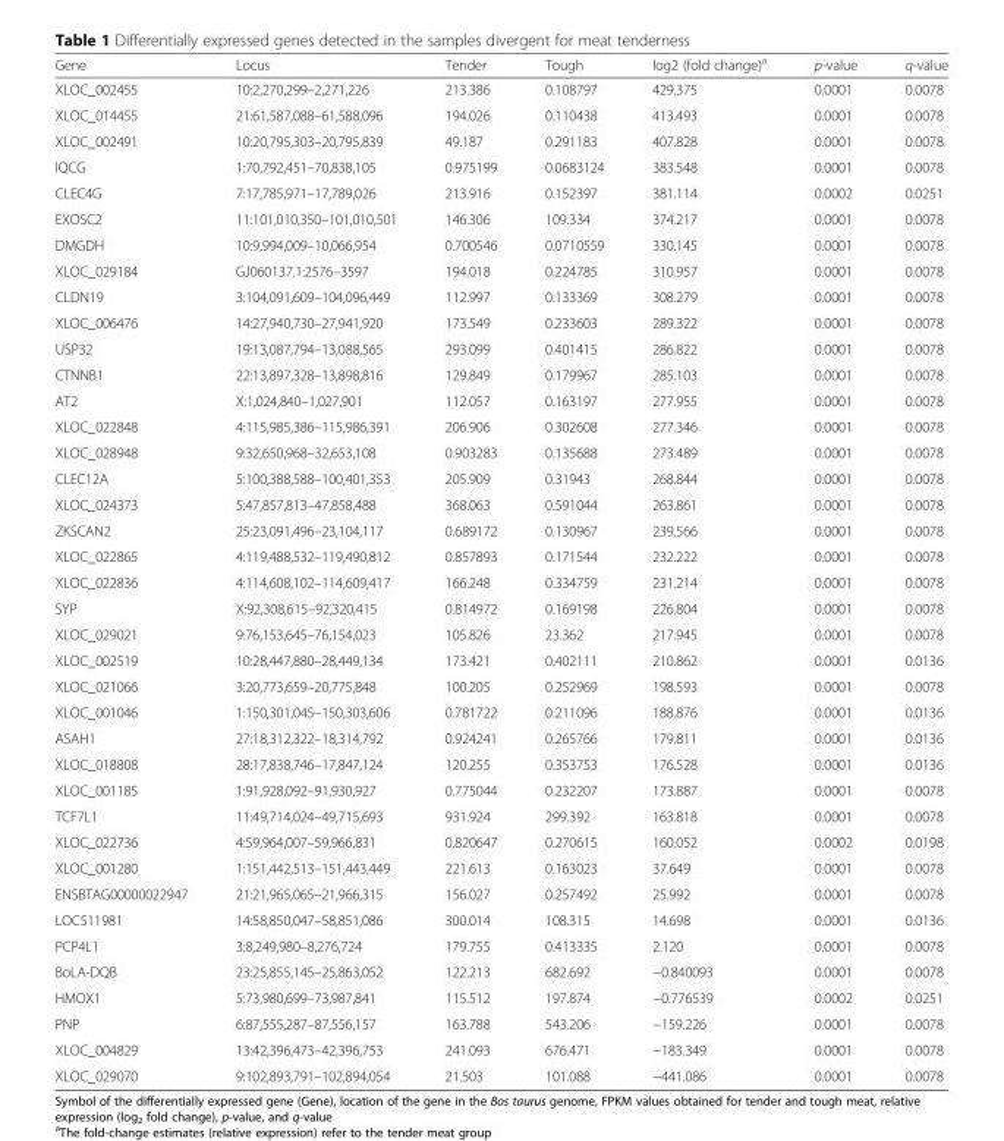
<table><thead><tr><td>Gene</td><td>Locus</td><td>Tender</td><td>Tough</td><td>log2 (fold change)<sup>a</sup></td><td>p-value</td><td>q-value</td></tr></thead><tbody><tr><td>XLOC_002455</td><td>10:2,270,299–2,271,226</td><td>213.386</td><td>0.108797</td><td>429.375</td><td>0.0001</td><td>0.0078</td></tr><tr><td>XLOC_014455</td><td>21:61,587,088–61,588,096</td><td>194.026</td><td>0.110438</td><td>413.493</td><td>0.0001</td><td>0.0078</td></tr><tr><td>XLOC_002491</td><td>10:20,795,303–20,795,839</td><td>49.187</td><td>0.291183</td><td>407.828</td><td>0.0001</td><td>0.0078</td></tr><tr><td>IQCG</td><td>1:70,792,451–70,838,105</td><td>0.975199</td><td>0.0683124</td><td>383.548</td><td>0.0001</td><td>0.0078</td></tr><tr><td>CLEC4G</td><td>7:17,785,971–17,789,026</td><td>213.916</td><td>0.152397</td><td>381.114</td><td>0.0002</td><td>0.0251</td></tr><tr><td>EXOSC2</td><td>11:101,010,350–101,010,501</td><td>146.306</td><td>109.334</td><td>374.217</td><td>0.0001</td><td>0.0078</td></tr><tr><td>DMGDH</td><td>10:9,994,009–10,066,954</td><td>0.700546</td><td>0.0710559</td><td>330.145</td><td>0.0001</td><td>0.0078</td></tr><tr><td>XLOC_029184</td><td>GJ060137.1:2576–3597</td><td>194.018</td><td>0.224785</td><td>310.957</td><td>0.0001</td><td>0.0078</td></tr><tr><td>CLDN19</td><td>3:104,091,609–104,096,449</td><td>112.997</td><td>0.133369</td><td>308.279</td><td>0.0001</td><td>0.0078</td></tr><tr><td>XLOC_006476</td><td>14:27,940,730–27,941,920</td><td>173.549</td><td>0.233603</td><td>289.322</td><td>0.0001</td><td>0.0078</td></tr><tr><td>USP32</td><td>19:13,087,794–13,088,565</td><td>293.099</td><td>0.401415</td><td>286.822</td><td>0.0001</td><td>0.0078</td></tr><tr><td>CTNNB1</td><td>22:13,897,328–13,898,816</td><td>129.849</td><td>0.179967</td><td>285.103</td><td>0.0001</td><td>0.0078</td></tr><tr><td>AT2</td><td>X:1,024,840–1,027,901</td><td>112.057</td><td>0.163197</td><td>277.955</td><td>0.0001</td><td>0.0078</td></tr><tr><td>XLOC_022848</td><td>4:115,985,386–115,986,391</td><td>206.906</td><td>0.302608</td><td>277.346</td><td>0.0001</td><td>0.0078</td></tr><tr><td>XLOC_028948</td><td>9:32,650,968–32,653,108</td><td>0.903283</td><td>0.135688</td><td>273.489</td><td>0.0001</td><td>0.0078</td></tr><tr><td>CLEC12A</td><td>5:100,388,588–100,401,353</td><td>205.909</td><td>0.31943</td><td>268.844</td><td>0.0001</td><td>0.0078</td></tr><tr><td>XLOC_024373</td><td>5:47,857,813–47,858,488</td><td>368.063</td><td>0.591044</td><td>263.861</td><td>0.0001</td><td>0.0078</td></tr><tr><td>ZKSCAN2</td><td>25:23,091,496–23,104,117</td><td>0.689172</td><td>0.130967</td><td>239.566</td><td>0.0001</td><td>0.0078</td></tr><tr><td>XLOC_022865</td><td>4:119,488,532–119,490,812</td><td>0.857893</td><td>0.171544</td><td>232.222</td><td>0.0001</td><td>0.0078</td></tr><tr><td>XLOC_022836</td><td>4:114,608,102–114,609,417</td><td>166.248</td><td>0.334759</td><td>231.214</td><td>0.0001</td><td>0.0078</td></tr><tr><td>SYP</td><td>X:92,308,615–92,320,415</td><td>0.814972</td><td>0.169198</td><td>226.804</td><td>0.0001</td><td>0.0078</td></tr><tr><td>XLOC_029021</td><td>9:76,153,645–76,154,023</td><td>105.826</td><td>23.362</td><td>217.945</td><td>0.0001</td><td>0.0078</td></tr><tr><td>XLOC_002519</td><td>10:28,447,880–28,449,134</td><td>173.421</td><td>0.402111</td><td>210.862</td><td>0.0001</td><td>0.0136</td></tr><tr><td>XLOC_021066</td><td>3:20,773,659–20,775,848</td><td>100.205</td><td>0.252969</td><td>198.593</td><td>0.0001</td><td>0.0078</td></tr><tr><td>XLOC_001046</td><td>1:150,301,045–150,303,606</td><td>0.781722</td><td>0.211096</td><td>188.876</td><td>0.0001</td><td>0.0136</td></tr><tr><td>ASAH1</td><td>27:18,312,322–18,314,792</td><td>0.924241</td><td>0.265766</td><td>179.811</td><td>0.0001</td><td>0.0136</td></tr><tr><td>XLOC_018808</td><td>28:17,838,746–17,847,124</td><td>120.255</td><td>0.353753</td><td>176.528</td><td>0.0001</td><td>0.0136</td></tr><tr><td>XLOC_001185</td><td>1:91,928,092–91,930,927</td><td>0.775044</td><td>0.232207</td><td>173.887</td><td>0.0001</td><td>0.0078</td></tr><tr><td>TCF7L1</td><td>11:49,714,024–49,715,693</td><td>931.924</td><td>299.392</td><td>163.818</td><td>0.0001</td><td>0.0078</td></tr><tr><td>XLOC_022736</td><td>4:59,964,007–59,966,831</td><td>0.820647</td><td>0.270615</td><td>160.052</td><td>0.0002</td><td>0.0198</td></tr><tr><td>XLOC_001280</td><td>1:151,442,513–151,443,449</td><td>221.613</td><td>0.163023</td><td>37.649</td><td>0.0001</td><td>0.0078</td></tr><tr><td>ENSBTAG00000022947</td><td>21:21,965,065–21,966,315</td><td>156.027</td><td>0.257492</td><td>25.992</td><td>0.0001</td><td>0.0078</td></tr><tr><td>LOC511981</td><td>14:58,850,047–58,851,086</td><td>300.014</td><td>108.315</td><td>14.698</td><td>0.0001</td><td>0.0136</td></tr><tr><td>PCP4L1</td><td>3:8,249,980–8,276,724</td><td>179.755</td><td>0.413335</td><td>2.120</td><td>0.0001</td><td>0.0078</td></tr><tr><td>BoLA-DQB</td><td>23:25,855,145–25,863,052</td><td>122.213</td><td>682.692</td><td>−0.840093</td><td>0.0001</td><td>0.0078</td></tr><tr><td>HMOX1</td><td>5:73,980,699–73,987,841</td><td>115.512</td><td>197.874</td><td>−0.776539</td><td>0.0002</td><td>0.0251</td></tr><tr><td>PNP</td><td>6:87,555,287–87,556,157</td><td>163.788</td><td>543.206</td><td>−159.226</td><td>0.0001</td><td>0.0078</td></tr><tr><td>XLOC_004829</td><td>13:42,396,473–42,396,753</td><td>241.093</td><td>676.471</td><td>−183.349</td><td>0.0001</td><td>0.0078</td></tr><tr><td>XLOC_029070</td><td>9:102,893,791–102,894,054</td><td>21.503</td><td>101.088</td><td>−441.086</td><td>0.0001</td><td>0.0078</td></tr></tbody></table>